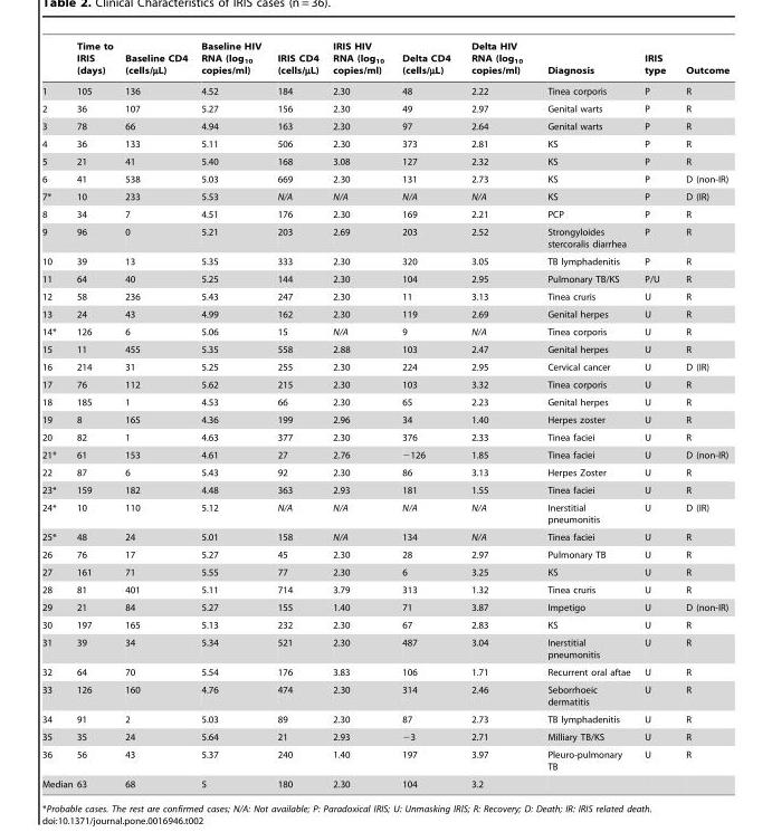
<table><thead><tr><td></td><td>Time to IRIS (days)</td><td>Baseline CD4 (cells/µL)</td><td>Baseline HIV RNA (log<sub>10</sub> copies/ml)</td><td>IRIS CD4 (cells/µL)</td><td>IRIS HIV RNA (log<sub>10</sub> copies/ml)</td><td>Delta CD4 (cells/µL)</td><td>Delta HIV RNA (log<sub>10</sub> copies/ml)</td><td>Diagnosis</td><td>IRIS type</td><td>Outcome</td></tr></thead><tbody><tr><td>1</td><td>105</td><td>136</td><td>4.52</td><td>184</td><td>2.30</td><td>48</td><td>2.22</td><td>Tinea corporis</td><td>P</td><td>R</td></tr><tr><td>2</td><td>36</td><td>107</td><td>5.27</td><td>156</td><td>2.30</td><td>49</td><td>2.97</td><td>Genital warts</td><td>P</td><td>R</td></tr><tr><td>3</td><td>78</td><td>66</td><td>4.94</td><td>163</td><td>2.30</td><td>97</td><td>2.64</td><td>Genital warts</td><td>P</td><td>R</td></tr><tr><td>4</td><td>36</td><td>133</td><td>5.11</td><td>506</td><td>2.30</td><td>373</td><td>2.81</td><td>KS</td><td>P</td><td>R</td></tr><tr><td>5</td><td>21</td><td>41</td><td>5.40</td><td>168</td><td>3.08</td><td>127</td><td>2.32</td><td>KS</td><td>P</td><td>R</td></tr><tr><td>6</td><td>41</td><td>538</td><td>5.03</td><td>669</td><td>2.30</td><td>131</td><td>2.73</td><td>KS</td><td>P</td><td>D (non-IR)</td></tr><tr><td>7*</td><td>10</td><td>233</td><td>5.53</td><td>N/A</td><td>N/A</td><td>N/A</td><td>N/A</td><td>KS</td><td>P</td><td>D (IR)</td></tr><tr><td>8</td><td>34</td><td>7</td><td>4.51</td><td>176</td><td>2.30</td><td>169</td><td>2.21</td><td>PCP</td><td>P</td><td>R</td></tr><tr><td>9</td><td>96</td><td>0</td><td>5.21</td><td>203</td><td>2.69</td><td>203</td><td>2.52</td><td>Strongyloides stercoralis diarrhea</td><td>P</td><td>R</td></tr><tr><td>10</td><td>39</td><td>13</td><td>5.35</td><td>333</td><td>2.30</td><td>320</td><td>3.05</td><td>TB lymphadenitis</td><td>P</td><td>R</td></tr><tr><td>11</td><td>64</td><td>40</td><td>5.25</td><td>144</td><td>2.30</td><td>104</td><td>2.95</td><td>Pulmonary TB/KS</td><td>P/U</td><td>R</td></tr><tr><td>12</td><td>58</td><td>236</td><td>5.43</td><td>247</td><td>2.30</td><td>11</td><td>3.13</td><td>Tinea cruris</td><td>U</td><td>R</td></tr><tr><td>13</td><td>24</td><td>43</td><td>4.99</td><td>162</td><td>2.30</td><td>119</td><td>2.69</td><td>Genital herpes</td><td>U</td><td>R</td></tr><tr><td>14*</td><td>126</td><td>6</td><td>5.06</td><td>15</td><td>N/A</td><td>9</td><td>N/A</td><td>Tinea corporis</td><td>U</td><td>R</td></tr><tr><td>15</td><td>11</td><td>455</td><td>5.35</td><td>558</td><td>2.88</td><td>103</td><td>2.47</td><td>Genital herpes</td><td>U</td><td>R</td></tr><tr><td>16</td><td>214</td><td>31</td><td>5.25</td><td>255</td><td>2.30</td><td>224</td><td>2.95</td><td>Cervical cancer</td><td>U</td><td>D (IR)</td></tr><tr><td>17</td><td>76</td><td>112</td><td>5.62</td><td>215</td><td>2.30</td><td>103</td><td>3.32</td><td>Tinea corporis</td><td>U</td><td>R</td></tr><tr><td>18</td><td>185</td><td>1</td><td>4.53</td><td>66</td><td>2.30</td><td>65</td><td>2.23</td><td>Genital herpes</td><td>U</td><td>R</td></tr><tr><td>19</td><td>8</td><td>165</td><td>4.36</td><td>199</td><td>2.96</td><td>34</td><td>1.40</td><td>Herpes zoster</td><td>U</td><td>R</td></tr><tr><td>20</td><td>82</td><td>1</td><td>4.63</td><td>377</td><td>2.30</td><td>376</td><td>2.33</td><td>Tinea faciei</td><td>U</td><td>R</td></tr><tr><td>21*</td><td>61</td><td>153</td><td>4.61</td><td>27</td><td>2.76</td><td>−126</td><td>1.85</td><td>Tinea faciei</td><td>U</td><td>D (non-IR)</td></tr><tr><td>22</td><td>87</td><td>6</td><td>5.43</td><td>92</td><td>2.30</td><td>86</td><td>3.13</td><td>Herpes Zoster</td><td>U</td><td>R</td></tr><tr><td>23*</td><td>159</td><td>182</td><td>4.48</td><td>363</td><td>2.93</td><td>181</td><td>1.55</td><td>Tinea faciei</td><td>U</td><td>R</td></tr><tr><td>24*</td><td>10</td><td>110</td><td>5.12</td><td>N/A</td><td>N/A</td><td>N/A</td><td>N/A</td><td>Inerstitial pneumonitis</td><td>U</td><td>D (IR)</td></tr><tr><td>25*</td><td>48</td><td>24</td><td>5.01</td><td>158</td><td>N/A</td><td>134</td><td>N/A</td><td>Tinea faciei</td><td>U</td><td>R</td></tr><tr><td>26</td><td>76</td><td>17</td><td>5.27</td><td>45</td><td>2.30</td><td>28</td><td>2.97</td><td>Pulmonary TB</td><td>U</td><td>R</td></tr><tr><td>27</td><td>161</td><td>71</td><td>5.55</td><td>77</td><td>2.30</td><td>6</td><td>3.25</td><td>KS</td><td>U</td><td>R</td></tr><tr><td>28</td><td>81</td><td>401</td><td>5.11</td><td>714</td><td>3.79</td><td>313</td><td>1.32</td><td>Tinea cruris</td><td>U</td><td>R</td></tr><tr><td>29</td><td>21</td><td>84</td><td>5.27</td><td>155</td><td>1.40</td><td>71</td><td>3.87</td><td>Impetigo</td><td>U</td><td>D (non-IR)</td></tr><tr><td>30</td><td>197</td><td>165</td><td>5.13</td><td>232</td><td>2.30</td><td>67</td><td>2.83</td><td>KS</td><td>U</td><td>R</td></tr><tr><td>31</td><td>39</td><td>34</td><td>5.34</td><td>521</td><td>2.30</td><td>487</td><td>3.04</td><td>Inerstitial pneumonitis</td><td>U</td><td>R</td></tr><tr><td>32</td><td>64</td><td>70</td><td>5.54</td><td>176</td><td>3.83</td><td>106</td><td>1.71</td><td>Recurrent oral aftae</td><td>U</td><td>R</td></tr><tr><td>33</td><td>126</td><td>160</td><td>4.76</td><td>474</td><td>2.30</td><td>314</td><td>2.46</td><td>Seborrhoeic dermatitis</td><td>U</td><td>R</td></tr><tr><td>34</td><td>91</td><td>2</td><td>5.03</td><td>89</td><td>2.30</td><td>87</td><td>2.73</td><td>TB lymphadenitis</td><td>U</td><td>R</td></tr><tr><td>35</td><td>35</td><td>24</td><td>5.64</td><td>21</td><td>2.93</td><td>−3</td><td>2.71</td><td>Milliary TB/KS</td><td>U</td><td>R</td></tr><tr><td>36</td><td>56</td><td>43</td><td>5.37</td><td>240</td><td>1.40</td><td>197</td><td>3.97</td><td>Pleuro-pulmonary TB</td><td>U</td><td>R</td></tr><tr><td>Median</td><td>63</td><td>68</td><td>5</td><td>180</td><td>2.30</td><td>104</td><td>3.2</td><td></td><td></td><td></td></tr></tbody></table>